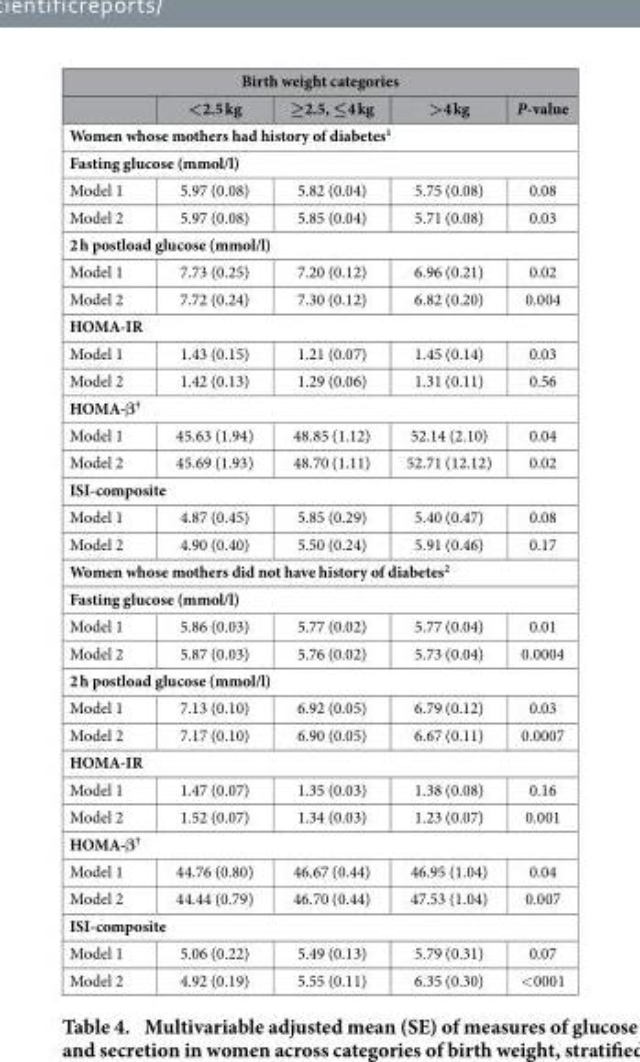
<table><thead><tr><td colspan="5">Birth weight categories</td></tr><tr><td></td><td>&lt;2.5 kg</td><td>≥2.5, ≤4 kg</td><td>&gt;4 kg</td><td>P-value</td></tr></thead><tbody><tr><td colspan="5">Women whose mothers had history of diabetes<sup>1</sup></td></tr><tr><td colspan="5">Fasting glucose (mmol/l)</td></tr><tr><td>Model 1</td><td>5.97 (0.08)</td><td>5.82 (0.04)</td><td>5.75 (0.08)</td><td>0.08</td></tr><tr><td>Model 2</td><td>5.97 (0.08)</td><td>5.85 (0.04)</td><td>5.71 (0.08)</td><td>0.03</td></tr><tr><td colspan="5">2 h postload glucose (mmol/l)</td></tr><tr><td>Model 1</td><td>7.73 (0.25)</td><td>7.20 (0.12)</td><td>6.96 (0.21)</td><td>0.02</td></tr><tr><td>Model 2</td><td>7.72 (0.24)</td><td>7.30 (0.12)</td><td>6.82 (0.20)</td><td>0.004</td></tr><tr><td colspan="5">HOMA-IR</td></tr><tr><td>Model 1</td><td>1.43 (0.15)</td><td>1.21 (0.07)</td><td>1.45 (0.14)</td><td>0.03</td></tr><tr><td>Model 2</td><td>1.42 (0.13)</td><td>1.29 (0.06)</td><td>1.31 (0.11)</td><td>0.56</td></tr><tr><td colspan="5">HOMA-β<sup>†</sup></td></tr><tr><td>Model 1</td><td>45.63 (1.94)</td><td>48.85 (1.12)</td><td>52.14 (2.10)</td><td>0.04</td></tr><tr><td>Model 2</td><td>45.69 (1.93)</td><td>48.70 (1.11)</td><td>52.71 (12.12)</td><td>0.02</td></tr><tr><td colspan="5">ISI-composite</td></tr><tr><td>Model 1</td><td>4.87 (0.45)</td><td>5.85 (0.29)</td><td>5.40 (0.47)</td><td>0.08</td></tr><tr><td>Model 2</td><td>4.90 (0.40)</td><td>5.50 (0.24)</td><td>5.91 (0.46)</td><td>0.17</td></tr><tr><td colspan="5">Women whose mothers did not have history of diabetes<sup>2</sup></td></tr><tr><td colspan="5">Fasting glucose (mmol/l)</td></tr><tr><td>Model 1</td><td>5.86 (0.03)</td><td>5.77 (0.02)</td><td>5.77 (0.04)</td><td>0.01</td></tr><tr><td>Model 2</td><td>5.87 (0.03)</td><td>5.76 (0.02)</td><td>5.73 (0.04)</td><td>0.0004</td></tr><tr><td colspan="5">2 h postload glucose (mmol/l)</td></tr><tr><td>Model 1</td><td>7.13 (0.10)</td><td>6.92 (0.05)</td><td>6.79 (0.12)</td><td>0.03</td></tr><tr><td>Model 2</td><td>7.17 (0.10)</td><td>6.90 (0.05)</td><td>6.67 (0.11)</td><td>0.0007</td></tr><tr><td colspan="5">HOMA-IR</td></tr><tr><td>Model 1</td><td>1.47 (0.07)</td><td>1.35 (0.03)</td><td>1.38 (0.08)</td><td>0.16</td></tr><tr><td>Model 2</td><td>1.52 (0.07)</td><td>1.34 (0.03)</td><td>1.23 (0.07)</td><td>0.001</td></tr><tr><td colspan="5">HOMA-β<sup>†</sup></td></tr><tr><td>Model 1</td><td>44.76 (0.80)</td><td>46.67 (0.44)</td><td>46.95 (1.04)</td><td>0.04</td></tr><tr><td>Model 2</td><td>44.44 (0.79)</td><td>46.70 (0.44)</td><td>47.53 (1.04)</td><td>0.007</td></tr><tr><td colspan="5">ISI-composite</td></tr><tr><td>Model 1</td><td>5.06 (0.22)</td><td>5.49 (0.13)</td><td>5.79 (0.31)</td><td>0.07</td></tr><tr><td>Model 2</td><td>4.92 (0.19)</td><td>5.55 (0.11)</td><td>6.35 (0.30)</td><td>&lt; 0001</td></tr></tbody></table>